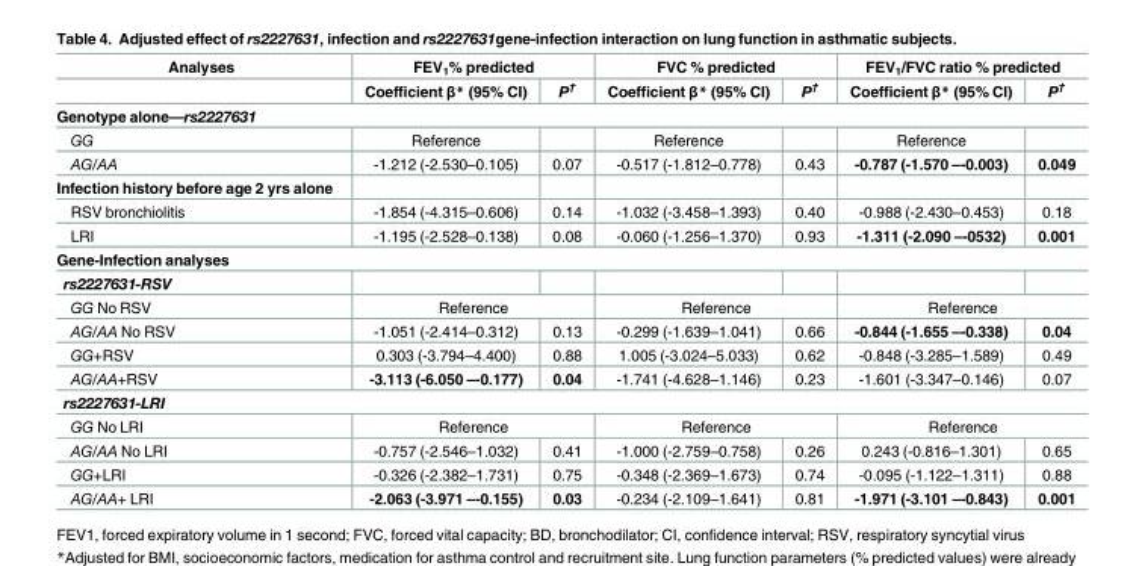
<table><thead><tr><td rowspan="2">Analyses</td><td colspan="2">FEV<sub>1</sub>% predicted</td><td colspan="2">FVC % predicted</td><td colspan="2">FEV<sub>1</sub>/FVC ratio % predicted</td></tr><tr><td>Coefficient β* (95% CI)</td><td>P<sup>†</sup></td><td>Coefficient β* (95% CI)</td><td>P<sup>†</sup></td><td>Coefficient β* (95% CI)</td><td>P<sup>†</sup></td></tr></thead><tbody><tr><td colspan="7">Genotype alone—rs2227631</td></tr><tr><td>GG</td><td>Reference</td><td></td><td>Reference</td><td></td><td>Reference</td><td></td></tr><tr><td>AG/AA</td><td>-1.212 (-2.530–0.105)</td><td>0.07</td><td>-0.517 (-1.812–0.778)</td><td>0.43</td><td>-0.787 (-1.570 –-0.003)</td><td>0.049</td></tr><tr><td colspan="7">Infection history before age 2 yrs alone</td></tr><tr><td>RSV bronchiolitis</td><td>-1.854 (-4.315–0.606)</td><td>0.14</td><td>-1.032 (-3.458–1.393)</td><td>0.40</td><td>-0.988 (-2.430–0.453)</td><td>0.18</td></tr><tr><td>LRI</td><td>-1.195 (-2.528–0.138)</td><td>0.08</td><td>-0.060 (-1.256–1.370)</td><td>0.93</td><td>-1.311 (-2.090 –-0532)</td><td>0.001</td></tr><tr><td colspan="7">Gene-Infection analyses</td></tr><tr><td colspan="7">rs2227631-RSV</td></tr><tr><td>GG No RSV</td><td colspan="2">Reference</td><td colspan="2">Reference</td><td colspan="2">Reference</td></tr><tr><td>AG/AA No RSV</td><td>-1.051 (-2.414–0.312)</td><td>0.13</td><td>-0.299 (-1.639–1.041)</td><td>0.66</td><td>-0.844 (-1.655 –-0.338)</td><td>0.04</td></tr><tr><td>GG+RSV</td><td>0.303 (-3.794–4.400)</td><td>0.88</td><td>1.005 (-3.024–5.033)</td><td>0.62</td><td>-0.848 (-3.285–1.589)</td><td>0.49</td></tr><tr><td>AG/AA+RSV</td><td>-3.113 (-6.050 –-0.177)</td><td>0.04</td><td>-1.741 (-4.628–1.146)</td><td>0.23</td><td>-1.601 (-3.347–0.146)</td><td>0.07</td></tr><tr><td colspan="7">rs2227631-LRI</td></tr><tr><td>GG No LRI</td><td colspan="2">Reference</td><td colspan="2">Reference</td><td colspan="2">Reference</td></tr><tr><td>AG/AA No LRI</td><td>-0.757 (-2.546–1.032)</td><td>0.41</td><td>-1.000 (-2.759–0.758)</td><td>0.26</td><td>0.243 (-0.816–1.301)</td><td>0.65</td></tr><tr><td>GG+LRI</td><td>-0.326 (-2.382–1.731)</td><td>0.75</td><td>-0.348 (-2.369–1.673)</td><td>0.74</td><td>-0.095 (-1.122–1.311)</td><td>0.88</td></tr><tr><td>AG/AA+ LRI</td><td>-2.063 (-3.971 –-0.155)</td><td>0.03</td><td>-0.234 (-2.109–1.641)</td><td>0.81</td><td>-1.971 (-3.101 –-0.843)</td><td>0.001</td></tr></tbody></table>